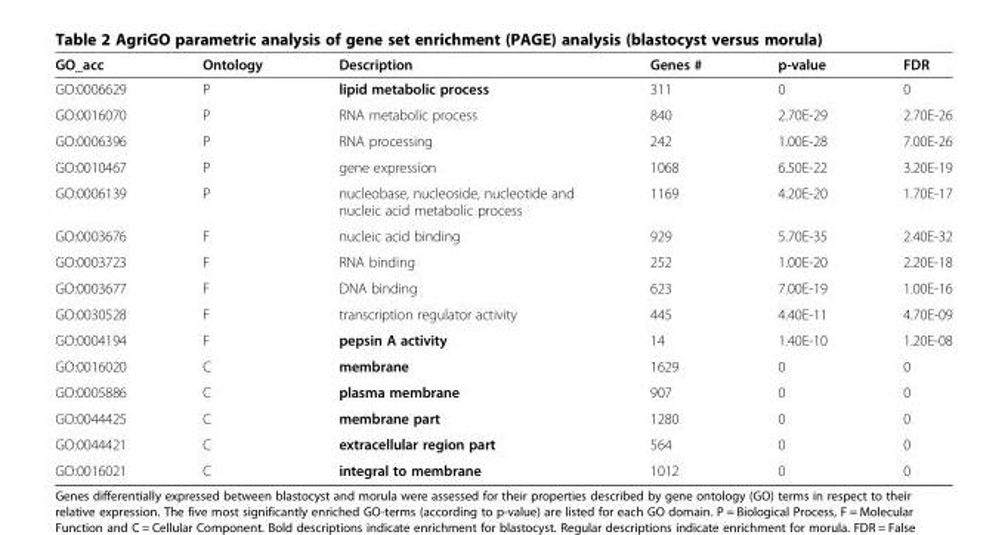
<table><thead><tr><td>GO_acc</td><td>Ontology</td><td>Description</td><td>Genes #</td><td>p-value</td><td>FDR</td></tr></thead><tbody><tr><td>GO:0006629</td><td>P</td><td>lipid metabolic process</td><td>311</td><td>0</td><td>0</td></tr><tr><td>GO:0016070</td><td>P</td><td>RNA metabolic process</td><td>840</td><td>2.70E-29</td><td>2.70E-26</td></tr><tr><td>GO:0006396</td><td>P</td><td>RNA processing</td><td>242</td><td>1.00E-28</td><td>7.00E-26</td></tr><tr><td>GO:0010467</td><td>P</td><td>gene expression</td><td>1068</td><td>6.50E-22</td><td>3.20E-19</td></tr><tr><td>GO:0006139</td><td>P</td><td>nucleobase, nucleoside, nucleotide and nucleic acid metabolic process</td><td>1169</td><td>4.20E-20</td><td>1.70E-17</td></tr><tr><td>GO:0003676</td><td>F</td><td>nucleic acid binding</td><td>929</td><td>5.70E-35</td><td>2.40E-32</td></tr><tr><td>GO:0003723</td><td>F</td><td>RNA binding</td><td>252</td><td>1.00E-20</td><td>2.20E-18</td></tr><tr><td>GO:0003677</td><td>F</td><td>DNA binding</td><td>623</td><td>7.00E-19</td><td>1.00E-16</td></tr><tr><td>GO:0030528</td><td>F</td><td>transcription regulator activity</td><td>445</td><td>4.40E-11</td><td>4.70E-09</td></tr><tr><td>GO:0004194</td><td>F</td><td>pepsin A activity</td><td>14</td><td>1.40E-10</td><td>1.20E-08</td></tr><tr><td>GO:0016020</td><td>C</td><td>membrane</td><td>1629</td><td>0</td><td>0</td></tr><tr><td>GO:0005886</td><td>C</td><td>plasma membrane</td><td>907</td><td>0</td><td>0</td></tr><tr><td>GO:0044425</td><td>C</td><td>membrane part</td><td>1280</td><td>0</td><td>0</td></tr><tr><td>GO:0044421</td><td>C</td><td>extracellular region part</td><td>564</td><td>0</td><td>0</td></tr><tr><td>GO:0016021</td><td>C</td><td>integral to membrane</td><td>1012</td><td>0</td><td>0</td></tr></tbody></table>